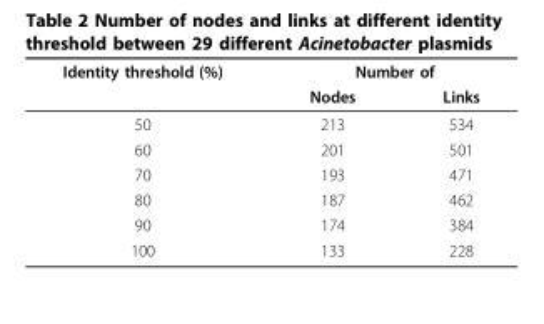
<table><thead><tr><td rowspan="2">Identity threshold (%)</td><td colspan="2">Number of</td></tr><tr><td>Nodes</td><td>Links</td></tr></thead><tbody><tr><td>50</td><td>213</td><td>534</td></tr><tr><td>60</td><td>201</td><td>501</td></tr><tr><td>70</td><td>193</td><td>471</td></tr><tr><td>80</td><td>187</td><td>462</td></tr><tr><td>90</td><td>174</td><td>384</td></tr><tr><td>100</td><td>133</td><td>228</td></tr></tbody></table>